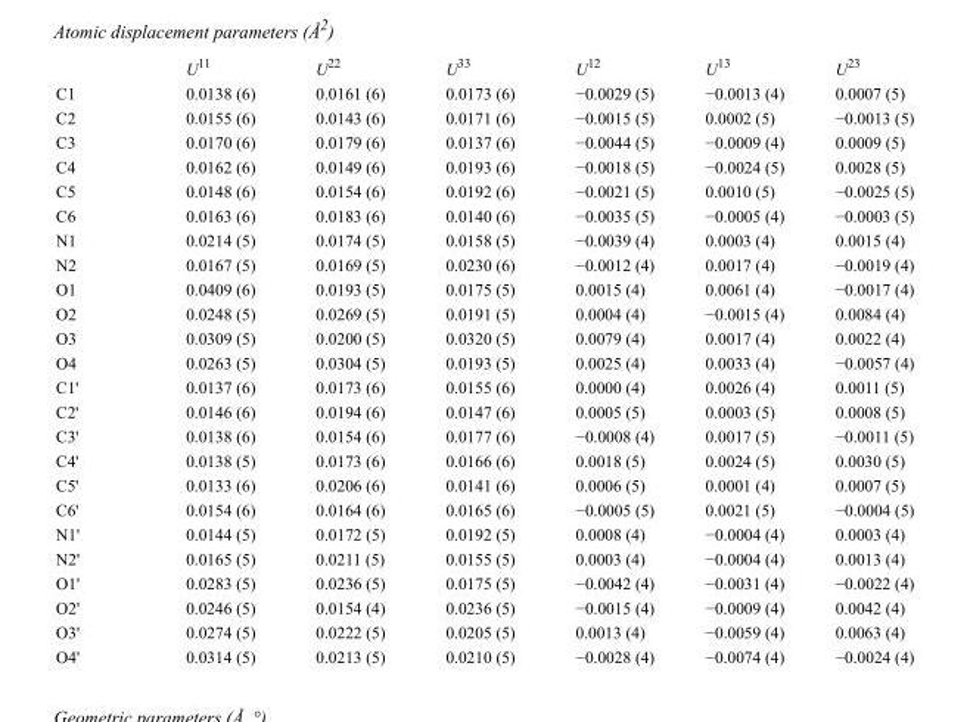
<table><thead><tr><td></td><td>U<sup>11</sup></td><td>U<sup>22</sup></td><td>U<sup>33</sup></td><td>U<sup>12</sup></td><td>U<sup>13</sup></td><td>U<sup>23</sup></td></tr></thead><tbody><tr><td>C1</td><td>0.0138 (6)</td><td>0.0161 (6)</td><td>0.0173 (6)</td><td>−0.0029 (5)</td><td>−0.0013 (4)</td><td>0.0007 (5)</td></tr><tr><td>C2</td><td>0.0155 (6)</td><td>0.0143 (6)</td><td>0.0171 (6)</td><td>−0.0015 (5)</td><td>0.0002 (5)</td><td>−0.0013 (5)</td></tr><tr><td>C3</td><td>0.0170 (6)</td><td>0.0179 (6)</td><td>0.0137 (6)</td><td>−0.0044 (5)</td><td>−0.0009 (4)</td><td>0.0009 (5)</td></tr><tr><td>C4</td><td>0.0162 (6)</td><td>0.0149 (6)</td><td>0.0193 (6)</td><td>−0.0018 (5)</td><td>−0.0024 (5)</td><td>0.0028 (5)</td></tr><tr><td>C5</td><td>0.0148 (6)</td><td>0.0154 (6)</td><td>0.0192 (6)</td><td>−0.0021 (5)</td><td>0.0010 (5)</td><td>−0.0025 (5)</td></tr><tr><td>C6</td><td>0.0163 (6)</td><td>0.0183 (6)</td><td>0.0140 (6)</td><td>−0.0035 (5)</td><td>−0.0005 (4)</td><td>−0.0003 (5)</td></tr><tr><td>N1</td><td>0.0214 (5)</td><td>0.0174 (5)</td><td>0.0158 (5)</td><td>−0.0039 (4)</td><td>0.0003 (4)</td><td>0.0015 (4)</td></tr><tr><td>N2</td><td>0.0167 (5)</td><td>0.0169 (5)</td><td>0.0230 (6)</td><td>−0.0012 (4)</td><td>0.0017 (4)</td><td>−0.0019 (4)</td></tr><tr><td>O1</td><td>0.0409 (6)</td><td>0.0193 (5)</td><td>0.0175 (5)</td><td>0.0015 (4)</td><td>0.0061 (4)</td><td>−0.0017 (4)</td></tr><tr><td>O2</td><td>0.0248 (5)</td><td>0.0269 (5)</td><td>0.0191 (5)</td><td>0.0004 (4)</td><td>−0.0015 (4)</td><td>0.0084 (4)</td></tr><tr><td>O3</td><td>0.0309 (5)</td><td>0.0200 (5)</td><td>0.0320 (5)</td><td>0.0079 (4)</td><td>0.0017 (4)</td><td>0.0022 (4)</td></tr><tr><td>O4</td><td>0.0263 (5)</td><td>0.0304 (5)</td><td>0.0193 (5)</td><td>0.0025 (4)</td><td>0.0033 (4)</td><td>−0.0057 (4)</td></tr><tr><td>C1&#x27;</td><td>0.0137 (6)</td><td>0.0173 (6)</td><td>0.0155 (6)</td><td>0.0000 (4)</td><td>0.0026 (4)</td><td>0.0011 (5)</td></tr><tr><td>C2&#x27;</td><td>0.0146 (6)</td><td>0.0194 (6)</td><td>0.0147 (6)</td><td>0.0005 (5)</td><td>0.0003 (5)</td><td>0.0008 (5)</td></tr><tr><td>C3&#x27;</td><td>0.0138 (6)</td><td>0.0154 (6)</td><td>0.0177 (6)</td><td>−0.0008 (4)</td><td>0.0017 (5)</td><td>−0.0011 (5)</td></tr><tr><td>C4&#x27;</td><td>0.0138 (5)</td><td>0.0173 (6)</td><td>0.0166 (6)</td><td>0.0018 (5)</td><td>0.0024 (5)</td><td>0.0030 (5)</td></tr><tr><td>C5&#x27;</td><td>0.0133 (6)</td><td>0.0206 (6)</td><td>0.0141 (6)</td><td>0.0006 (5)</td><td>0.0001 (4)</td><td>0.0007 (5)</td></tr><tr><td>C6&#x27;</td><td>0.0154 (6)</td><td>0.0164 (6)</td><td>0.0165 (6)</td><td>−0.0005 (5)</td><td>0.0021 (5)</td><td>−0.0004 (5)</td></tr><tr><td>N1&#x27;</td><td>0.0144 (5)</td><td>0.0172 (5)</td><td>0.0192 (5)</td><td>0.0008 (4)</td><td>−0.0004 (4)</td><td>0.0003 (4)</td></tr><tr><td>N2&#x27;</td><td>0.0165 (5)</td><td>0.0211 (5)</td><td>0.0155 (5)</td><td>0.0003 (4)</td><td>−0.0004 (4)</td><td>0.0013 (4)</td></tr><tr><td>O1&#x27;</td><td>0.0283 (5)</td><td>0.0236 (5)</td><td>0.0175 (5)</td><td>−0.0042 (4)</td><td>−0.0031 (4)</td><td>−0.0022 (4)</td></tr><tr><td>O2&#x27;</td><td>0.0246 (5)</td><td>0.0154 (4)</td><td>0.0236 (5)</td><td>−0.0015 (4)</td><td>−0.0009 (4)</td><td>0.0042 (4)</td></tr><tr><td>O3&#x27;</td><td>0.0274 (5)</td><td>0.0222 (5)</td><td>0.0205 (5)</td><td>0.0013 (4)</td><td>−0.0059 (4)</td><td>0.0063 (4)</td></tr><tr><td>O4&#x27;</td><td>0.0314 (5)</td><td>0.0213 (5)</td><td>0.0210 (5)</td><td>−0.0028 (4)</td><td>−0.0074 (4)</td><td>−0.0024 (4)</td></tr></tbody></table>